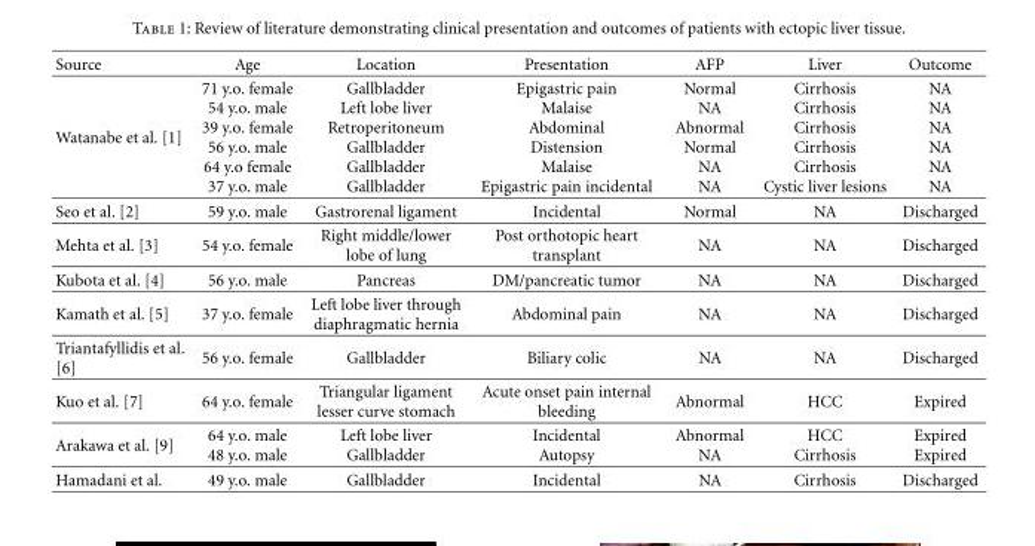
<table><thead><tr><td>Source</td><td>Age</td><td>Location</td><td>Presentation</td><td>AFP</td><td>Liver</td><td>Outcome</td></tr></thead><tbody><tr><td>Watanabe et al. [1]</td><td>71 y.o. female 54 y.o. male 39 y.o. female 56 y.o. male 64 y.o female 37 y.o. male</td><td>Gallbladder Left lobe liver Retroperitoneum Gallbladder Gallbladder Gallbladder</td><td>Epigastric pain Malaise Abdominal Distension Malaise Epigastric pain incidental</td><td>Normal NA Abnormal Normal NA NA</td><td>Cirrhosis Cirrhosis Cirrhosis Cirrhosis Cirrhosis Cystic liver lesions</td><td>NA NA NA NA NA NA</td></tr><tr><td>Seo et al. [2]</td><td>59 y.o. male</td><td>Gastrorenal ligament</td><td>Incidental</td><td>Normal</td><td>NA</td><td>Discharged</td></tr><tr><td>Mehta et al. [3]</td><td>54 y.o. female</td><td>Right middle/lower lobe of lung</td><td>Post orthotopic heart transplant</td><td>NA</td><td>NA</td><td>Discharged</td></tr><tr><td>Kubota et al. [4]</td><td>56 y.o. male</td><td>Pancreas</td><td>DM/pancreatic tumor</td><td>NA</td><td>NA</td><td>Discharged</td></tr><tr><td>Kamath et al. [5]</td><td>37 y.o. female</td><td>Left lobe liver through diaphragmatic hernia</td><td>Abdominal pain</td><td>NA</td><td>NA</td><td>Discharged</td></tr><tr><td>Triantafyllidis et al. [6]</td><td>56 y.o. female</td><td>Gallbladder</td><td>Biliary colic</td><td>NA</td><td>NA</td><td>Discharged</td></tr><tr><td>Kuo et al. [7]</td><td>64 y.o. female</td><td>Triangular ligament lesser curve stomach</td><td>Acute onset pain internal bleeding</td><td>Abnormal</td><td>HCC</td><td>Expired</td></tr><tr><td>Arakawa et al. [9]</td><td>64 y.o. male 48 y.o. male</td><td>Left lobe liver Gallbladder</td><td>Incidental Autopsy</td><td>Abnormal NA</td><td>HCC Cirrhosis</td><td>Expired Expired</td></tr><tr><td>Hamadani et al.</td><td>49 y.o. male</td><td>Gallbladder</td><td>Incidental</td><td>NA</td><td>Cirrhosis</td><td>Discharged</td></tr></tbody></table>